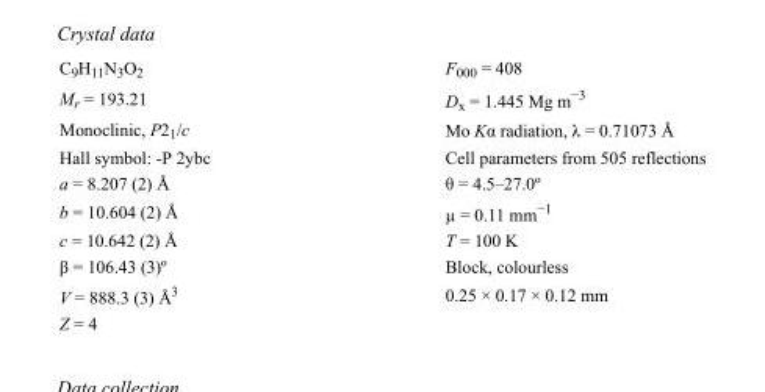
<table><tbody><tr><td>C<sub>9</sub>H<sub>11</sub>N<sub>3</sub>O<sub>2</sub></td><td>F000 = 408</td></tr><tr><td>M<sub>r</sub> = 193.21</td><td>D<sub>x</sub> = 1.445 Mg m<sup>−3</sup></td></tr><tr><td>Monoclinic, P2<sub>1</sub>/c</td><td>Mo Kα radiation, λ = 0.71073 Å</td></tr><tr><td>Hall symbol: -P 2ybc</td><td>Cell parameters from 505 reflections</td></tr><tr><td>a = 8.207 (2) Å</td><td>θ = 4.5–27.0º</td></tr><tr><td>b = 10.604 (2) Å</td><td>µ = 0.11 mm<sup>−1</sup></td></tr><tr><td>c = 10.642 (2) Å</td><td>T = 100 K</td></tr><tr><td>β = 106.43 (3)º</td><td>Block, colourless</td></tr><tr><td>V = 888.3 (3) Å<sup>3</sup></td><td>0.25 × 0.17 × 0.12 mm</td></tr><tr><td>Z = 4</td><td></td></tr></tbody></table>